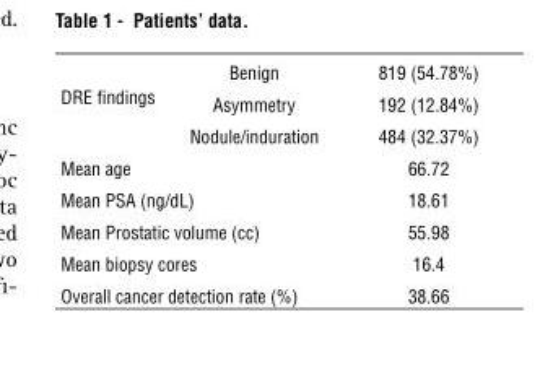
<table><tbody><tr><td rowspan="3">DRE findings</td><td>Benign</td><td>819 (54.78%)</td></tr><tr><td>Asymmetry</td><td>192 (12.84%)</td></tr><tr><td>Nodule/induration</td><td>484 (32.37%)</td></tr><tr><td colspan="2">Mean age</td><td>66.72</td></tr><tr><td colspan="2">Mean PSA (ng/dL)</td><td>18.61</td></tr><tr><td colspan="2">Mean Prostatic volume (cc)</td><td>55.98</td></tr><tr><td colspan="2">Mean biopsy cores</td><td>16.4</td></tr><tr><td colspan="2">Overall cancer detection rate (%)</td><td>38.66</td></tr></tbody></table>